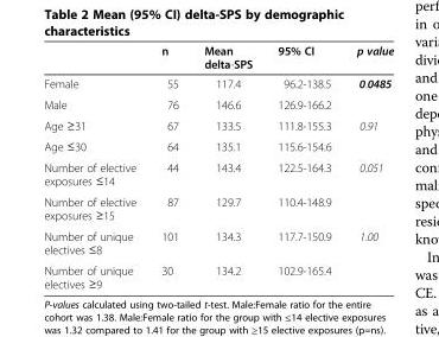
<table><thead><tr><td></td><td>n</td><td>Mean delta-SPS</td><td>95% CI</td><td>p value</td></tr></thead><tbody><tr><td>Female</td><td>55</td><td>117.4</td><td>96.2-138.5</td><td rowspan="2">0.0485</td></tr><tr><td>Male</td><td>76</td><td>146.6</td><td>126.9-166.2</td></tr><tr><td>Age ≥31</td><td>67</td><td>133.5</td><td>111.8-155.3</td><td rowspan="2">0.91</td></tr><tr><td>Age ≤30</td><td>64</td><td>135.1</td><td>115.6-154.6</td></tr><tr><td>Number of elective exposures ≤14</td><td>44</td><td>143.4</td><td>122.5-164.3</td><td rowspan="2">0.051</td></tr><tr><td>Number of elective exposures ≥15</td><td>87</td><td>129.7</td><td>110.4-148.9</td></tr><tr><td>Number of unique electives ≤8</td><td>101</td><td>134.3</td><td>117.7-150.9</td><td>1.00</td></tr><tr><td>Number of unique electives ≥9</td><td>30</td><td>134.2</td><td>102.9-165.4</td><td></td></tr></tbody></table>